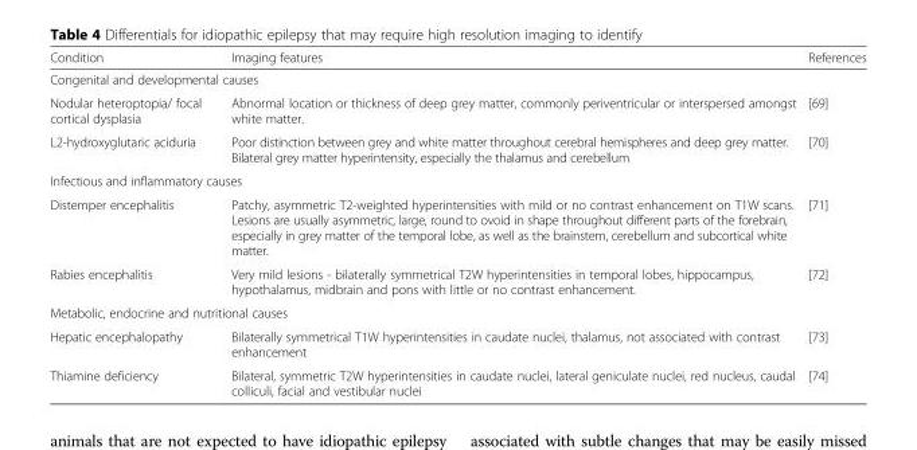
<table><thead><tr><td>Condition</td><td>Imaging features</td><td>References</td></tr></thead><tbody><tr><td colspan="3">Congenital and developmental causes</td></tr><tr><td>Nodular heteroptopia/ focal cortical dysplasia</td><td>Abnormal location or thickness of deep grey matter, commonly periventricular or interspersed amongst white matter.</td><td>[69]</td></tr><tr><td>L2-hydroxyglutaric aciduria</td><td>Poor distinction between grey and white matter throughout cerebral hemispheres and deep grey matter. Bilateral grey matter hyperintensity, especially the thalamus and cerebellum</td><td>[70]</td></tr><tr><td colspan="3">Infectious and inflammatory causes</td></tr><tr><td>Distemper encephalitis</td><td>Patchy, asymmetric T2-weighted hyperintensities with mild or no contrast enhancement on T1W scans. Lesions are usually asymmetric, large, round to ovoid in shape throughout different parts of the forebrain, especially in grey matter of the temporal lobe, as well as the brainstem, cerebellum and subcortical white matter.</td><td>[71]</td></tr><tr><td>Rabies encephalitis</td><td>Very mild lesions - bilaterally symmetrical T2W hyperintensities in temporal lobes, hippocampus, hypothalamus, midbrain and pons with little or no contrast enhancement.</td><td>[72]</td></tr><tr><td colspan="3">Metabolic, endocrine and nutritional causes</td></tr><tr><td>Hepatic encephalopathy</td><td>Bilaterally symmetrical T1W hyperintensities in caudate nuclei, thalamus, not associated with contrast enhancement</td><td>[73]</td></tr><tr><td>Thiamine deficiency</td><td>Bilateral, symmetric T2W hyperintensities in caudate nuclei, lateral geniculate nuclei, red nucleus, caudal colliculi, facial and vestibular nuclei</td><td>[74]</td></tr></tbody></table>